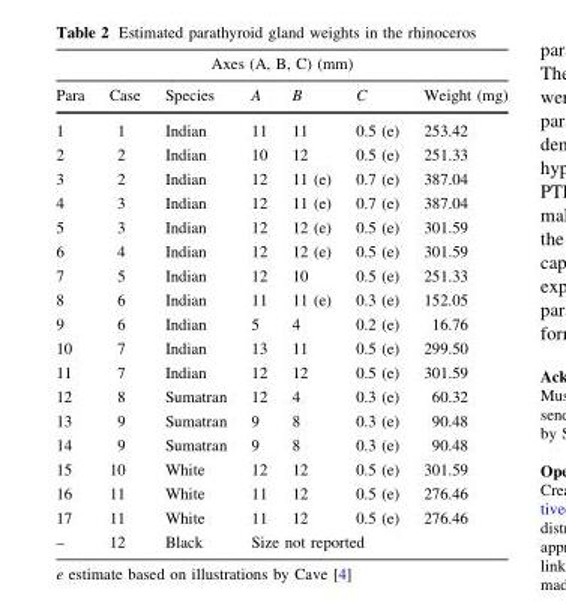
<table><thead><tr><td colspan="7">Axes (A, B, C) (mm)</td></tr><tr><td>Para</td><td>Case</td><td>Species</td><td>A</td><td>B</td><td>C</td><td>Weight (mg)</td></tr></thead><tbody><tr><td>1</td><td>1</td><td>Indian</td><td>11</td><td>11</td><td>0.5 (e)</td><td>253.42</td></tr><tr><td>2</td><td>2</td><td>Indian</td><td>10</td><td>12</td><td>0.5 (e)</td><td>251.33</td></tr><tr><td>3</td><td>2</td><td>Indian</td><td>12</td><td>11 (e)</td><td>0.7 (e)</td><td>387.04</td></tr><tr><td>4</td><td>3</td><td>Indian</td><td>12</td><td>11 (e)</td><td>0.7 (e)</td><td>387.04</td></tr><tr><td>5</td><td>3</td><td>Indian</td><td>12</td><td>12 (e)</td><td>0.5 (e)</td><td>301.59</td></tr><tr><td>6</td><td>4</td><td>Indian</td><td>12</td><td>12 (e)</td><td>0.5 (e)</td><td>301.59</td></tr><tr><td>7</td><td>5</td><td>Indian</td><td>12</td><td>10</td><td>0.5 (e)</td><td>251.33</td></tr><tr><td>8</td><td>6</td><td>Indian</td><td>11</td><td>11 (e)</td><td>0.3 (e)</td><td>152.05</td></tr><tr><td>9</td><td>6</td><td>Indian</td><td>5</td><td>4</td><td>0.2 (e)</td><td>16.76</td></tr><tr><td>10</td><td>7</td><td>Indian</td><td>13</td><td>11</td><td>0.5 (e)</td><td>299.50</td></tr><tr><td>11</td><td>7</td><td>Indian</td><td>12</td><td>12</td><td>0.5 (e)</td><td>301.59</td></tr><tr><td>12</td><td>8</td><td>Sumatran</td><td>12</td><td>4</td><td>0.3 (e)</td><td>60.32</td></tr><tr><td>13</td><td>9</td><td>Sumatran</td><td>9</td><td>8</td><td>0.3 (e)</td><td>90.48</td></tr><tr><td>14</td><td>9</td><td>Sumatran</td><td>9</td><td>8</td><td>0.3 (e)</td><td>90.48</td></tr><tr><td>15</td><td>10</td><td>White</td><td>12</td><td>12</td><td>0.5 (e)</td><td>301.59</td></tr><tr><td>16</td><td>11</td><td>White</td><td>11</td><td>12</td><td>0.5 (e)</td><td>276.46</td></tr><tr><td>17</td><td>11</td><td>White</td><td>11</td><td>12</td><td>0.5 (e)</td><td>276.46</td></tr><tr><td>–</td><td>12</td><td>Black</td><td colspan="3">Size not reported</td><td></td></tr></tbody></table>